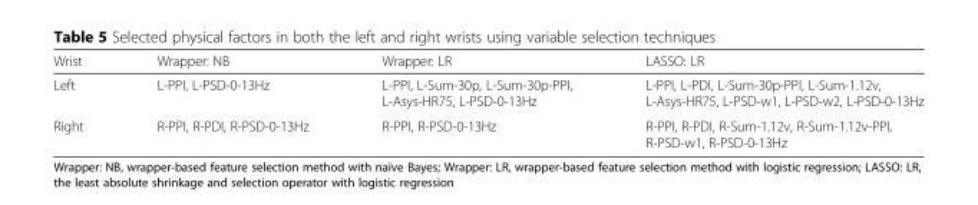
<table><thead><tr><td>Wrist</td><td>Wrapper: NB</td><td>Wrapper: LR</td><td>LASSO: LR</td></tr></thead><tbody><tr><td>Left</td><td>L-PPI, L-PSD-0-13Hz</td><td>L-PPI, L-Sum-30p, L-Sum-30p-PPI, L-Asys-HR75, L-PSD-0-13Hz</td><td>L-PPI, L-PDI, L-Sum-30p-PPI, L-Sum-1.12v, L-Asys-HR75, L-PSD-w1, L-PSD-w2, L-PSD-0-13Hz</td></tr><tr><td>Right</td><td>R-PPI, R-PDI, R-PSD-0-13Hz</td><td>R-PPI, R-PSD-0-13Hz</td><td>R-PPI, R-PDI, R-Sum-1.12v, R-Sum-1.12v-PPI, R-PSD-w1, R-PSD-0-13Hz</td></tr></tbody></table>